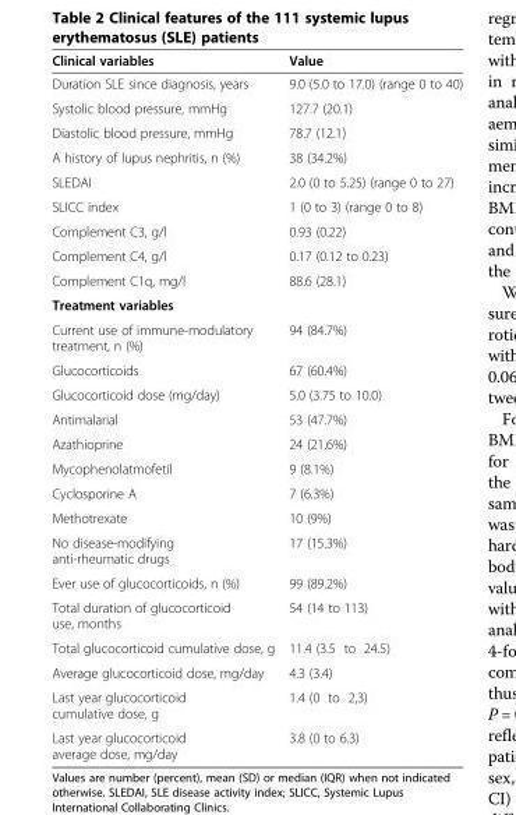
<table><thead><tr><td>Clinical variables</td><td>Value</td></tr></thead><tbody><tr><td>Duration SLE since diagnosis, years</td><td>9.0 (5.0 to 17.0) (range 0 to 40)</td></tr><tr><td>Systolic blood pressure, mmHg</td><td>127.7 (20.1)</td></tr><tr><td>Diastolic blood pressure, mmHg</td><td>78.7 (12.1)</td></tr><tr><td>A history of lupus nephritis, n (%)</td><td>38 (34.2%)</td></tr><tr><td>SLEDAI</td><td>2.0 (0 to 5.25) (range 0 to 27)</td></tr><tr><td>SLICC index</td><td>1 (0 to 3) (range 0 to 8)</td></tr><tr><td>Complement C3, g/l</td><td>0.93 (0.22)</td></tr><tr><td>Complement C4, g/l</td><td>0.17 (0.12 to 0.23)</td></tr><tr><td>Complement C1q, mg/l</td><td>88.6 (28.1)</td></tr><tr><td colspan="2">Treatment variables</td></tr><tr><td>Current use of immune-modulatory treatment, n (%)</td><td>94 (84.7%)</td></tr><tr><td>Glucocorticoids</td><td>67 (60.4%)</td></tr><tr><td>Glucocorticoid dose (mg/day)</td><td>5.0 (3.75 to 10.0)</td></tr><tr><td>Antimalarial</td><td>53 (47.7%)</td></tr><tr><td>Azathioprine</td><td>24 (21.6%)</td></tr><tr><td>Mycophenolatmofetil</td><td>9 (8.1%)</td></tr><tr><td>Cyclosporine A</td><td>7 (6.3%)</td></tr><tr><td>Methotrexate</td><td>10 (9%)</td></tr><tr><td>No disease-modifying anti-rheumatic drugs</td><td>17 (15.3%)</td></tr><tr><td>Ever use of glucocorticoids, n (%)</td><td>99 (89.2%)</td></tr><tr><td>Total duration of glucocorticoid use, months</td><td>54 (14 to 113)</td></tr><tr><td>Total glucocorticoid cumulative dose, g</td><td>11.4 (3.5 to 24.5)</td></tr><tr><td>Average glucocorticoid dose, mg/day</td><td>4.3 (3.4)</td></tr><tr><td>Last year glucocorticoid cumulative dose, g</td><td>1.4 (0 to 2,3)</td></tr><tr><td>Last year glucocorticoid average dose, mg/day</td><td>3.8 (0 to 6.3)</td></tr></tbody></table>